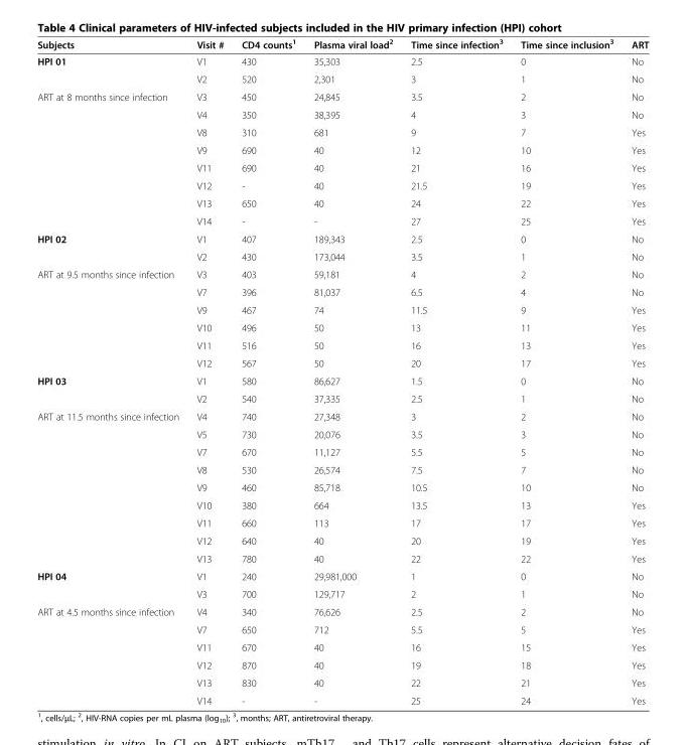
<table><thead><tr><td>Subjects</td><td>Visit #</td><td>CD4 counts<sup>1</sup></td><td>Plasma viral load<sup>2</sup></td><td>Time since infection<sup>3</sup></td><td>Time since inclusion<sup>3</sup></td><td>ART</td></tr></thead><tbody><tr><td rowspan="2">HPI 01</td><td>V1</td><td>430</td><td>35,303</td><td>2.5</td><td>0</td><td>No</td></tr><tr><td>V2</td><td>520</td><td>2,301</td><td>3</td><td>1</td><td>No</td></tr><tr><td rowspan="8">ART at 8 months since infection</td><td>V3</td><td>450</td><td>24,845</td><td>3.5</td><td>2</td><td>No</td></tr><tr><td>V4</td><td>350</td><td>38,395</td><td>4</td><td>3</td><td>No</td></tr><tr><td>V8</td><td>310</td><td>681</td><td>9</td><td>7</td><td>Yes</td></tr><tr><td>V9</td><td>690</td><td>40</td><td>12</td><td>10</td><td>Yes</td></tr><tr><td>V11</td><td>690</td><td>40</td><td>21</td><td>16</td><td>Yes</td></tr><tr><td>V12</td><td>-</td><td>40</td><td>21.5</td><td>19</td><td>Yes</td></tr><tr><td>V13</td><td>650</td><td>40</td><td>24</td><td>22</td><td>Yes</td></tr><tr><td>V14</td><td>-</td><td>-</td><td>27</td><td>25</td><td>Yes</td></tr><tr><td rowspan="2">HPI 02</td><td>V1</td><td>407</td><td>189,343</td><td>2.5</td><td>0</td><td>No</td></tr><tr><td>V2</td><td>430</td><td>173,044</td><td>3.5</td><td>1</td><td>No</td></tr><tr><td rowspan="6">ART at 9.5 months since infection</td><td>V3</td><td>403</td><td>59,181</td><td>4</td><td>2</td><td>No</td></tr><tr><td>V7</td><td>396</td><td>81,037</td><td>6.5</td><td>4</td><td>No</td></tr><tr><td>V9</td><td>467</td><td>74</td><td>11.5</td><td>9</td><td>Yes</td></tr><tr><td>V10</td><td>496</td><td>50</td><td>13</td><td>11</td><td>Yes</td></tr><tr><td>V11</td><td>516</td><td>50</td><td>16</td><td>13</td><td>Yes</td></tr><tr><td>V12</td><td>567</td><td>50</td><td>20</td><td>17</td><td>Yes</td></tr><tr><td rowspan="2">HPI 03</td><td>V1</td><td>580</td><td>86,627</td><td>1.5</td><td>0</td><td>No</td></tr><tr><td>V2</td><td>540</td><td>37,335</td><td>2.5</td><td>1</td><td>No</td></tr><tr><td rowspan="9">ART at 11.5 months since infection</td><td>V4</td><td>740</td><td>27,348</td><td>3</td><td>2</td><td>No</td></tr><tr><td>V5</td><td>730</td><td>20,076</td><td>3.5</td><td>3</td><td>No</td></tr><tr><td>V7</td><td>670</td><td>11,127</td><td>5.5</td><td>5</td><td>No</td></tr><tr><td>V8</td><td>530</td><td>26,574</td><td>7.5</td><td>7</td><td>No</td></tr><tr><td>V9</td><td>460</td><td>85,718</td><td>10.5</td><td>10</td><td>No</td></tr><tr><td>V10</td><td>380</td><td>664</td><td>13.5</td><td>13</td><td>Yes</td></tr><tr><td>V11</td><td>660</td><td>113</td><td>17</td><td>17</td><td>Yes</td></tr><tr><td>V12</td><td>640</td><td>40</td><td>20</td><td>19</td><td>Yes</td></tr><tr><td>V13</td><td>780</td><td>40</td><td>22</td><td>22</td><td>Yes</td></tr><tr><td rowspan="2">HPI 04</td><td>V1</td><td>240</td><td>29,981,000</td><td>1</td><td>0</td><td>No</td></tr><tr><td>V3</td><td>700</td><td>129,717</td><td>2</td><td>1</td><td>No</td></tr><tr><td rowspan="6">ART at 4.5 months since infection</td><td>V4</td><td>340</td><td>76,626</td><td>2.5</td><td>2</td><td>No</td></tr><tr><td>V7</td><td>650</td><td>712</td><td>5.5</td><td>5</td><td>Yes</td></tr><tr><td>V11</td><td>670</td><td>40</td><td>16</td><td>15</td><td>Yes</td></tr><tr><td>V12</td><td>870</td><td>40</td><td>19</td><td>18</td><td>Yes</td></tr><tr><td>V13</td><td>830</td><td>40</td><td>22</td><td>21</td><td>Yes</td></tr><tr><td>V14</td><td>-</td><td>-</td><td>25</td><td>24</td><td>Yes</td></tr></tbody></table>